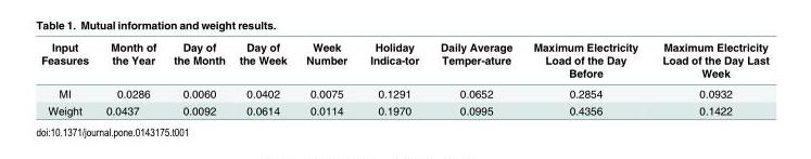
<table><thead><tr><td>Input Feasures</td><td>Month of the Year</td><td>Day of the Month</td><td>Day of the Week</td><td>Week Number</td><td>Holiday Indica-tor</td><td>Daily Average Temper-ature</td><td>Maximum Electricity Load of the Day Before</td><td>Maximum Electricity Load of the Day Last Week</td></tr></thead><tbody><tr><td>MI</td><td>0.0286</td><td>0.0060</td><td>0.0402</td><td>0.0075</td><td>0.1291</td><td>0.0652</td><td>0.2854</td><td>0.0932</td></tr><tr><td>Weight</td><td>0.0437</td><td>0.0092</td><td>0.0614</td><td>0.0114</td><td>0.1970</td><td>0.0995</td><td>0.4356</td><td>0.1422</td></tr></tbody></table>